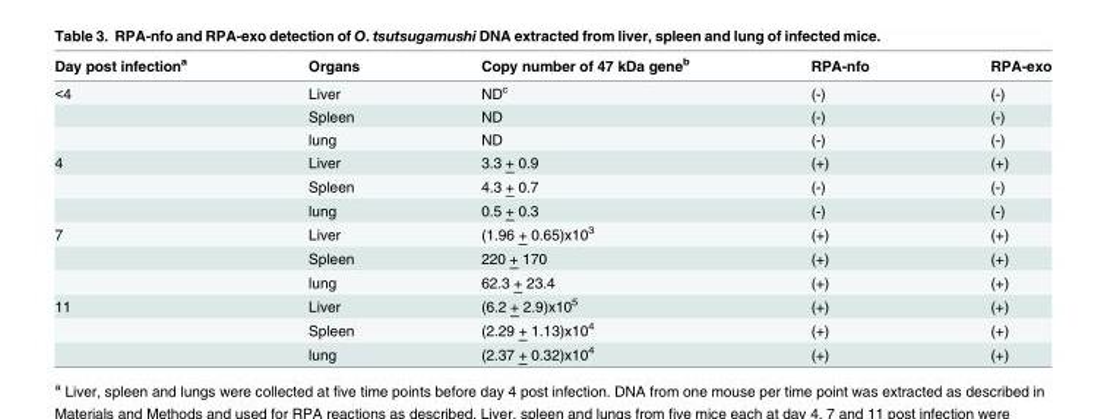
<table><thead><tr><td>Day post infection<sup>a</sup></td><td>Organs</td><td>Copy number of 47 kDa gene<sup>b</sup></td><td>RPA-nfo</td><td>RPA-exo</td></tr></thead><tbody><tr><td rowspan="3">&lt;4</td><td>Liver</td><td>ND<sup>c</sup></td><td>(-)</td><td>(-)</td></tr><tr><td>Spleen</td><td>ND</td><td>(-)</td><td>(-)</td></tr><tr><td>lung</td><td>ND</td><td>(-)</td><td>(-)</td></tr><tr><td rowspan="3">4</td><td>Liver</td><td>3.3 + 0.9</td><td>(+)</td><td>(+)</td></tr><tr><td>Spleen</td><td>4.3 + 0.7</td><td>(-)</td><td>(-)</td></tr><tr><td>lung</td><td>0.5 + 0.3</td><td>(-)</td><td>(-)</td></tr><tr><td rowspan="3">7</td><td>Liver</td><td>(1.96 + 0.65)x10<sup>3</sup></td><td>(+)</td><td>(+)</td></tr><tr><td>Spleen</td><td>220 + 170</td><td>(+)</td><td>(+)</td></tr><tr><td>lung</td><td>62.3 + 23.4</td><td>(+)</td><td>(+)</td></tr><tr><td rowspan="3">11</td><td>Liver</td><td>(6.2 + 2.9)x10<sup>5</sup></td><td>(+)</td><td>(+)</td></tr><tr><td>Spleen</td><td>(2.29 + 1.13)x10<sup>4</sup></td><td>(+)</td><td>(+)</td></tr><tr><td>lung</td><td>(2.37 + 0.32)x10<sup>4</sup></td><td>(+)</td><td>(+)</td></tr></tbody></table>